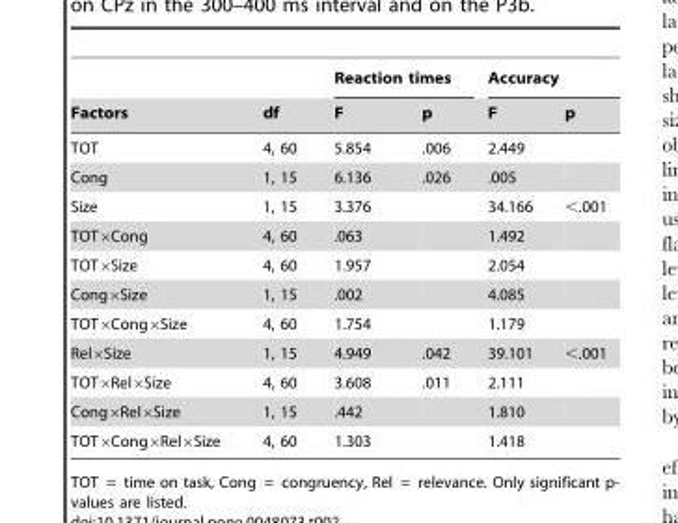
<table><thead><tr><td rowspan="2">Factors</td><td rowspan="2">df</td><td colspan="2">Reaction times</td><td colspan="2">Accuracy</td></tr><tr><td>F</td><td>p</td><td>F</td><td>p</td></tr></thead><tbody><tr><td>TOT</td><td>4, 60</td><td>5.854</td><td>.006</td><td>2.449</td><td></td></tr><tr><td>Cong</td><td>1, 15</td><td>6.136</td><td>.026</td><td>.005</td><td></td></tr><tr><td>Size</td><td>1, 15</td><td>3.376</td><td></td><td>34.166</td><td>&lt;.001</td></tr><tr><td>TOT×Cong</td><td>4, 60</td><td>.063</td><td></td><td>1.492</td><td></td></tr><tr><td>TOT×Size</td><td>4, 60</td><td>1.957</td><td></td><td>2.054</td><td></td></tr><tr><td>Cong×Size</td><td>1, 15</td><td>.002</td><td></td><td>4.085</td><td></td></tr><tr><td>TOT×Cong×Size</td><td>4, 60</td><td>1.754</td><td></td><td>1.179</td><td></td></tr><tr><td>Rel×Size</td><td>1, 15</td><td>4.949</td><td>.042</td><td>39.101</td><td>&lt;.001</td></tr><tr><td>TOT×Rel×Size</td><td>4, 60</td><td>3.608</td><td>.011</td><td>2.111</td><td></td></tr><tr><td>Cong×Rel×Size</td><td>1, 15</td><td>.442</td><td></td><td>1.810</td><td></td></tr><tr><td>TOT×Cong×Rel×Size</td><td>4, 60</td><td>1.303</td><td></td><td>1.418</td><td></td></tr></tbody></table>